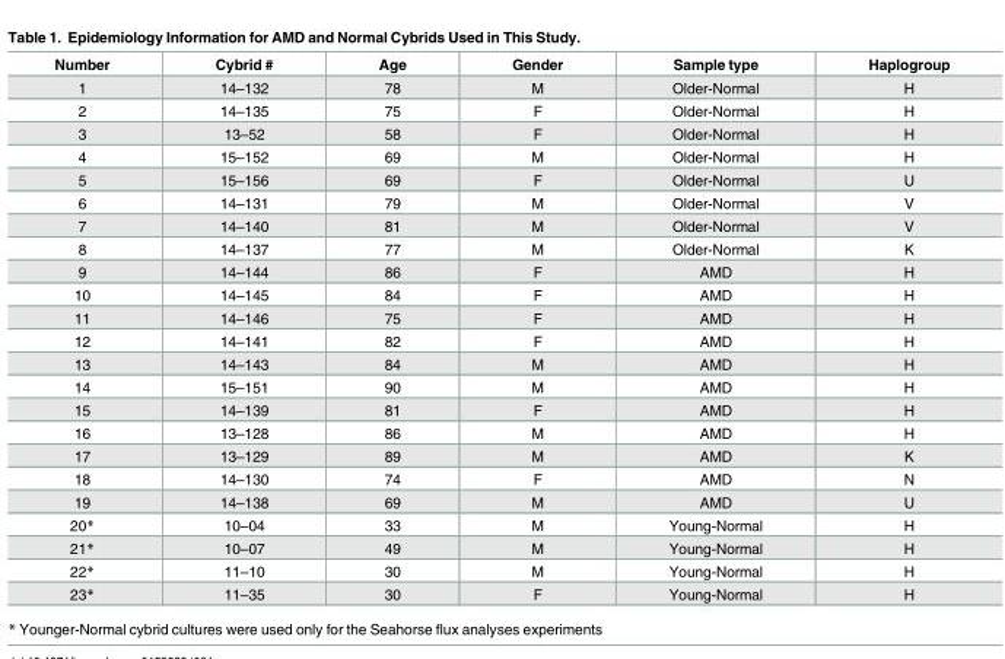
<table><thead><tr><td>Number</td><td>Cybrid #</td><td>Age</td><td>Gender</td><td>Sample type</td><td>Haplogroup</td></tr></thead><tbody><tr><td>1</td><td>14–132</td><td>78</td><td>M</td><td>Older-Normal</td><td>H</td></tr><tr><td>2</td><td>14–135</td><td>75</td><td>F</td><td>Older-Normal</td><td>H</td></tr><tr><td>3</td><td>13–52</td><td>58</td><td>F</td><td>Older-Normal</td><td>H</td></tr><tr><td>4</td><td>15–152</td><td>69</td><td>M</td><td>Older-Normal</td><td>H</td></tr><tr><td>5</td><td>15–156</td><td>69</td><td>F</td><td>Older-Normal</td><td>U</td></tr><tr><td>6</td><td>14–131</td><td>79</td><td>M</td><td>Older-Normal</td><td>V</td></tr><tr><td>7</td><td>14–140</td><td>81</td><td>M</td><td>Older-Normal</td><td>V</td></tr><tr><td>8</td><td>14–137</td><td>77</td><td>M</td><td>Older-Normal</td><td>K</td></tr><tr><td>9</td><td>14–144</td><td>86</td><td>F</td><td>AMD</td><td>H</td></tr><tr><td>10</td><td>14–145</td><td>84</td><td>F</td><td>AMD</td><td>H</td></tr><tr><td>11</td><td>14–146</td><td>75</td><td>F</td><td>AMD</td><td>H</td></tr><tr><td>12</td><td>14–141</td><td>82</td><td>F</td><td>AMD</td><td>H</td></tr><tr><td>13</td><td>14–143</td><td>84</td><td>M</td><td>AMD</td><td>H</td></tr><tr><td>14</td><td>15–151</td><td>90</td><td>M</td><td>AMD</td><td>H</td></tr><tr><td>15</td><td>14–139</td><td>81</td><td>F</td><td>AMD</td><td>H</td></tr><tr><td>16</td><td>13–128</td><td>86</td><td>M</td><td>AMD</td><td>H</td></tr><tr><td>17</td><td>13–129</td><td>89</td><td>M</td><td>AMD</td><td>K</td></tr><tr><td>18</td><td>14–130</td><td>74</td><td>F</td><td>AMD</td><td>N</td></tr><tr><td>19</td><td>14–138</td><td>69</td><td>M</td><td>AMD</td><td>U</td></tr><tr><td>20*</td><td>10–04</td><td>33</td><td>M</td><td>Young-Normal</td><td>H</td></tr><tr><td>21*</td><td>10–07</td><td>49</td><td>M</td><td>Young-Normal</td><td>H</td></tr><tr><td>22*</td><td>11–10</td><td>30</td><td>M</td><td>Young-Normal</td><td>H</td></tr><tr><td>23*</td><td>11–35</td><td>30</td><td>F</td><td>Young-Normal</td><td>H</td></tr></tbody></table>